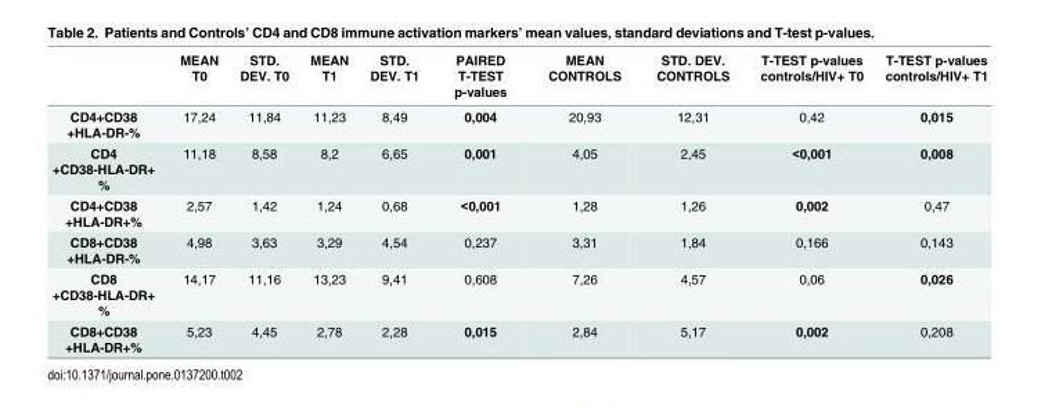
<table><thead><tr><td></td><td>MEAN T0</td><td>STD. DEV. T0</td><td>MEAN T1</td><td>STD. DEV. T1</td><td>PAIRED T-TEST p-values</td><td>MEAN CONTROLS</td><td>STD. DEV. CONTROLS</td><td>T-TEST p-values controls/HIV+ T0</td><td>T-TEST p-values controls/HIV+ T1</td></tr></thead><tbody><tr><td>CD4+CD38 +HLA-DR-%</td><td>17,24</td><td>11,84</td><td>11,23</td><td>8,49</td><td>0,004</td><td>20,93</td><td>12,31</td><td>0,42</td><td>0,015</td></tr><tr><td>CD4 +CD38-HLA-DR+ %</td><td>11,18</td><td>8,58</td><td>8,2</td><td>6,65</td><td>0,001</td><td>4,05</td><td>2,45</td><td>&lt;0,001</td><td>0,008</td></tr><tr><td>CD4+CD38 +HLA-DR+%</td><td>2,57</td><td>1,42</td><td>1,24</td><td>0,68</td><td>&lt;0,001</td><td>1,28</td><td>1,26</td><td>0,002</td><td>0,47</td></tr><tr><td>CD8+CD38 +HLA-DR-%</td><td>4,98</td><td>3,63</td><td>3,29</td><td>4,54</td><td>0,237</td><td>3,31</td><td>1,84</td><td>0,166</td><td>0,143</td></tr><tr><td>CD8 +CD38-HLA-DR+ %</td><td>14,17</td><td>11,16</td><td>13,23</td><td>9,41</td><td>0,608</td><td>7,26</td><td>4,57</td><td>0,06</td><td>0,026</td></tr><tr><td>CD8+CD38 +HLA-DR+%</td><td>5,23</td><td>4,45</td><td>2,78</td><td>2,28</td><td>0,015</td><td>2,84</td><td>5,17</td><td>0,002</td><td>0,208</td></tr></tbody></table>